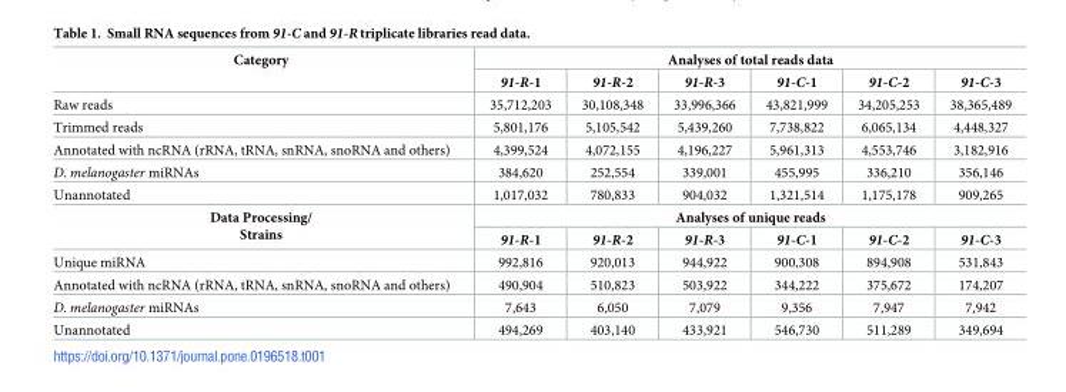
<table><tbody><tr><td rowspan="2">Category</td><td colspan="6">Analyses of total reads data</td></tr><tr><td>91-R-1</td><td>91-R-2</td><td>91-R-3</td><td>91-C-1</td><td>91-C-2</td><td>91-C-3</td></tr><tr><td>Raw reads</td><td>35,712,203</td><td>30,108,348</td><td>33,996,366</td><td>43,821,999</td><td>34,205,253</td><td>38,365,489</td></tr><tr><td>Trimmed reads</td><td>5,801,176</td><td>5,105,542</td><td>5,439,260</td><td>7,738,822</td><td>6,065,134</td><td>4,448,327</td></tr><tr><td>Annotated with ncRNA (rRNA, tRNA, snRNA, snoRNA and others)</td><td>4,399,524</td><td>4,072,155</td><td>4,196,227</td><td>5,961,313</td><td>4,553,746</td><td>3,182,916</td></tr><tr><td>D. melanogaster miRNAs</td><td>384,620</td><td>252,554</td><td>339,001</td><td>455,995</td><td>336,210</td><td>356,146</td></tr><tr><td>Unannotated</td><td>1,017,032</td><td>780,833</td><td>904,032</td><td>1,321,514</td><td>1,175,178</td><td>909,265</td></tr><tr><td rowspan="2">Data Processing/ Strains</td><td colspan="6">Analyses of unique reads</td></tr><tr><td>91-R-1</td><td>91-R-2</td><td>91-R-3</td><td>91-C-1</td><td>91-C-2</td><td>91-C-3</td></tr><tr><td>Unique miRNA</td><td>992,816</td><td>920,013</td><td>944,922</td><td>900,308</td><td>894,908</td><td>531,843</td></tr><tr><td>Annotated with ncRNA (rRNA, tRNA, snRNA, snoRNA and others)</td><td>490,904</td><td>510,823</td><td>503,922</td><td>344,222</td><td>375,672</td><td>174,207</td></tr><tr><td>D. melanogaster miRNAs</td><td>7,643</td><td>6,050</td><td>7,079</td><td>9,356</td><td>7,947</td><td>7,942</td></tr><tr><td>Unannotated</td><td>494,269</td><td>403,140</td><td>433,921</td><td>546,730</td><td>511,289</td><td>349,694</td></tr></tbody></table>